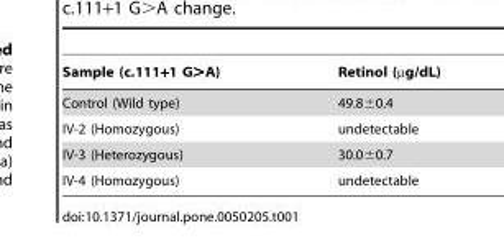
<table><thead><tr><td>Sample (c.111+1 G&gt;A)</td><td>Retinol (µg/dL)</td></tr></thead><tbody><tr><td>Control (Wild type)</td><td>49.8±0.4</td></tr><tr><td>IV-2 (Homozygous)</td><td>undetectable</td></tr><tr><td>IV-3 (Heterozygous)</td><td>30.0±0.7</td></tr><tr><td>IV-4 (Homozygous)</td><td>undetectable</td></tr></tbody></table>